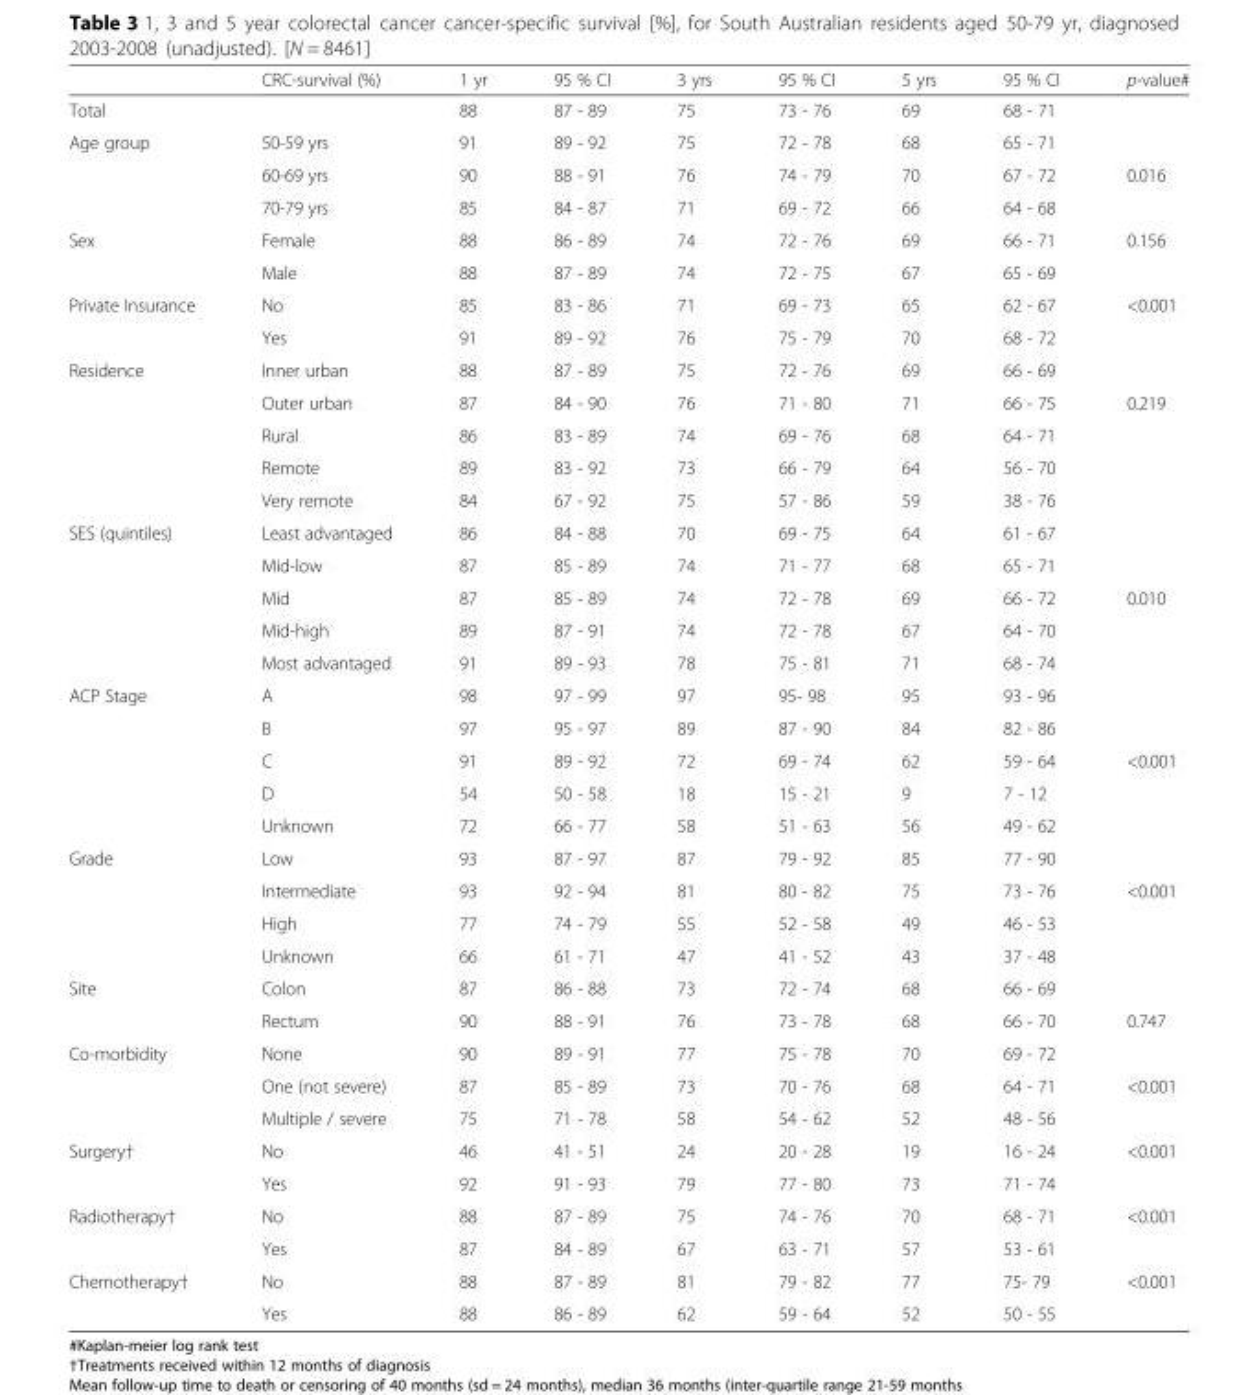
<table><thead><tr><td></td><td>CRC-survival (%)</td><td>1 yr</td><td>95 % CI</td><td>3 yrs</td><td>95 % CI</td><td>5 yrs</td><td>95 % CI</td><td>p-value#</td></tr></thead><tbody><tr><td>Total</td><td></td><td>88</td><td>87 - 89</td><td>75</td><td>73 - 76</td><td>69</td><td>68 - 71</td><td></td></tr><tr><td rowspan="3">Age group</td><td>50-59 yrs</td><td>91</td><td>89 - 92</td><td>75</td><td>72 - 78</td><td>68</td><td>65 - 71</td><td></td></tr><tr><td>60-69 yrs</td><td>90</td><td>88 - 91</td><td>76</td><td>74 - 79</td><td>70</td><td>67 - 72</td><td>0.016</td></tr><tr><td>70-79 yrs</td><td>85</td><td>84 - 87</td><td>71</td><td>69 - 72</td><td>66</td><td>64 - 68</td><td></td></tr><tr><td rowspan="2">Sex</td><td>Female</td><td>88</td><td>86 - 89</td><td>74</td><td>72 - 76</td><td>69</td><td>66 - 71</td><td>0.156</td></tr><tr><td>Male</td><td>88</td><td>87 - 89</td><td>74</td><td>72 - 75</td><td>67</td><td>65 - 69</td><td></td></tr><tr><td rowspan="2">Private Insurance</td><td>No</td><td>85</td><td>83 - 86</td><td>71</td><td>69 - 73</td><td>65</td><td>62 - 67</td><td>&lt;0.001</td></tr><tr><td>Yes</td><td>91</td><td>89 - 92</td><td>76</td><td>75 - 79</td><td>70</td><td>68 - 72</td><td></td></tr><tr><td rowspan="5">Residence</td><td>Inner urban</td><td>88</td><td>87 - 89</td><td>75</td><td>72 - 76</td><td>69</td><td>66 - 69</td><td></td></tr><tr><td>Outer urban</td><td>87</td><td>84 - 90</td><td>76</td><td>71 - 80</td><td>71</td><td>66 - 75</td><td>0.219</td></tr><tr><td>Rural</td><td>86</td><td>83 - 89</td><td>74</td><td>69 - 76</td><td>68</td><td>64 - 71</td><td></td></tr><tr><td>Remote</td><td>89</td><td>83 - 92</td><td>73</td><td>66 - 79</td><td>64</td><td>56 - 70</td><td></td></tr><tr><td>Very remote</td><td>84</td><td>67 - 92</td><td>75</td><td>57 - 86</td><td>59</td><td>38 - 76</td><td></td></tr><tr><td rowspan="5">SES (quintiles)</td><td>Least advantaged</td><td>86</td><td>84 - 88</td><td>70</td><td>69 - 75</td><td>64</td><td>61 - 67</td><td></td></tr><tr><td>Mid-low</td><td>87</td><td>85 - 89</td><td>74</td><td>71 - 77</td><td>68</td><td>65 - 71</td><td></td></tr><tr><td>Mid</td><td>87</td><td>85 - 89</td><td>74</td><td>72 - 78</td><td>69</td><td>66 - 72</td><td>0.010</td></tr><tr><td>Mid-high</td><td>89</td><td>87 - 91</td><td>74</td><td>72 - 78</td><td>67</td><td>64 - 70</td><td></td></tr><tr><td>Most advantaged</td><td>91</td><td>89 - 93</td><td>78</td><td>75 - 81</td><td>71</td><td>68 - 74</td><td></td></tr><tr><td rowspan="5">ACP Stage</td><td>A</td><td>98</td><td>97 - 99</td><td>97</td><td>95- 98</td><td>95</td><td>93 - 96</td><td></td></tr><tr><td>B</td><td>97</td><td>95 - 97</td><td>89</td><td>87 - 90</td><td>84</td><td>82 - 86</td><td></td></tr><tr><td>C</td><td>91</td><td>89 - 92</td><td>72</td><td>69 - 74</td><td>62</td><td>59 - 64</td><td>&lt;0.001</td></tr><tr><td>D</td><td>54</td><td>50 - 58</td><td>18</td><td>15 - 21</td><td>9</td><td>7 - 12</td><td></td></tr><tr><td>Unknown</td><td>72</td><td>66 - 77</td><td>58</td><td>51 - 63</td><td>56</td><td>49 - 62</td><td></td></tr><tr><td rowspan="4">Grade</td><td>Low</td><td>93</td><td>87 - 97</td><td>87</td><td>79 - 92</td><td>85</td><td>77 - 90</td><td></td></tr><tr><td>Intermediate</td><td>93</td><td>92 - 94</td><td>81</td><td>80 - 82</td><td>75</td><td>73 - 76</td><td>&lt;0.001</td></tr><tr><td>High</td><td>77</td><td>74 - 79</td><td>55</td><td>52 - 58</td><td>49</td><td>46 - 53</td><td></td></tr><tr><td>Unknown</td><td>66</td><td>61 - 71</td><td>47</td><td>41 - 52</td><td>43</td><td>37 - 48</td><td></td></tr><tr><td rowspan="2">Site</td><td>Colon</td><td>87</td><td>86 - 88</td><td>73</td><td>72 - 74</td><td>68</td><td>66 - 69</td><td></td></tr><tr><td>Rectum</td><td>90</td><td>88 - 91</td><td>76</td><td>73 - 78</td><td>68</td><td>66 - 70</td><td>0.747</td></tr><tr><td rowspan="3">Co-morbidity</td><td>None</td><td>90</td><td>89 - 91</td><td>77</td><td>75 - 78</td><td>70</td><td>69 - 72</td><td></td></tr><tr><td>One (not severe)</td><td>87</td><td>85 - 89</td><td>73</td><td>70 - 76</td><td>68</td><td>64 - 71</td><td>&lt;0.001</td></tr><tr><td>Multiple / severe</td><td>75</td><td>71 - 78</td><td>58</td><td>54 - 62</td><td>52</td><td>48 - 56</td><td></td></tr><tr><td rowspan="2">Surgery†</td><td>No</td><td>46</td><td>41 - 51</td><td>24</td><td>20 - 28</td><td>19</td><td>16 - 24</td><td>&lt;0.001</td></tr><tr><td>Yes</td><td>92</td><td>91 - 93</td><td>79</td><td>77 - 80</td><td>73</td><td>71 - 74</td><td></td></tr><tr><td rowspan="2">Radiotherapy†</td><td>No</td><td>88</td><td>87 - 89</td><td>75</td><td>74 - 76</td><td>70</td><td>68 - 71</td><td>&lt;0.001</td></tr><tr><td>Yes</td><td>87</td><td>84 - 89</td><td>67</td><td>63 - 71</td><td>57</td><td>53 - 61</td><td></td></tr><tr><td rowspan="2">Chemotherapy†</td><td>No</td><td>88</td><td>87 - 89</td><td>81</td><td>79 - 82</td><td>77</td><td>75- 79</td><td>&lt;0.001</td></tr><tr><td>Yes</td><td>88</td><td>86 - 89</td><td>62</td><td>59 - 64</td><td>52</td><td>50 - 55</td><td></td></tr></tbody></table>